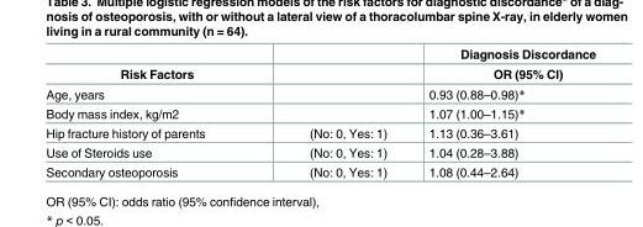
<table><thead><tr><td rowspan="2">Risk Factors</td><td rowspan="2"></td><td rowspan="2">Diagnosis Discordance OR (95% CI)</td></tr><tr></tr></thead><tbody><tr><td>Age, years</td><td></td><td>0.93 (0.88–0.98)*</td></tr><tr><td>Body mass index, kg/m2</td><td></td><td>1.07 (1.00–1.15)*</td></tr><tr><td>Hip fracture history of parents</td><td>(No: 0, Yes: 1)</td><td>1.13 (0.36–3.61)</td></tr><tr><td>Use of Steroids use</td><td>(No: 0, Yes: 1)</td><td>1.04 (0.28–3.88)</td></tr><tr><td>Secondary osteoporosis</td><td>(No: 0, Yes: 1)</td><td>1.08 (0.44–2.64)</td></tr></tbody></table>